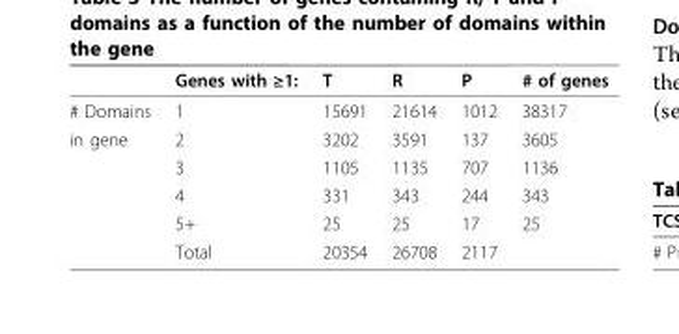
<table><thead><tr><td></td><td>Genes with ≥1:</td><td>T</td><td>R</td><td>P</td><td># of genes</td></tr></thead><tbody><tr><td># Domains</td><td>1</td><td>15691</td><td>21614</td><td>1012</td><td>38317</td></tr><tr><td rowspan="5">in gene</td><td>2</td><td>3202</td><td>3591</td><td>137</td><td>3605</td></tr><tr><td>3</td><td>1105</td><td>1135</td><td>707</td><td>1136</td></tr><tr><td>4</td><td>331</td><td>343</td><td>244</td><td>343</td></tr><tr><td>5+</td><td>25</td><td>25</td><td>17</td><td>25</td></tr><tr><td>Total</td><td>20354</td><td>26708</td><td>2117</td><td></td></tr></tbody></table>